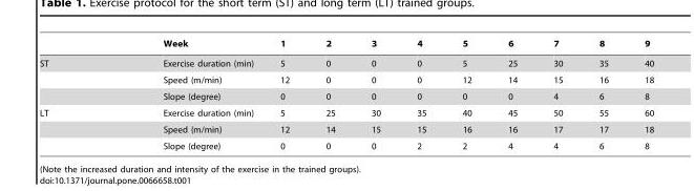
<table><thead><tr><td></td><td>Week</td><td>1</td><td>2</td><td>3</td><td>4</td><td>5</td><td>6</td><td>7</td><td>8</td><td>9</td></tr></thead><tbody><tr><td rowspan="3">ST</td><td>Exercise duration (min)</td><td>5</td><td>0</td><td>0</td><td>0</td><td>5</td><td>25</td><td>30</td><td>35</td><td>40</td></tr><tr><td>Speed (m/min)</td><td>12</td><td>0</td><td>0</td><td>0</td><td>12</td><td>14</td><td>15</td><td>16</td><td>18</td></tr><tr><td>Slope (degree)</td><td>0</td><td>0</td><td>0</td><td>0</td><td>0</td><td>0</td><td>4</td><td>6</td><td>8</td></tr><tr><td rowspan="3">LT</td><td>Exercise duration (min)</td><td>5</td><td>25</td><td>30</td><td>35</td><td>40</td><td>45</td><td>50</td><td>55</td><td>60</td></tr><tr><td>Speed (m/min)</td><td>12</td><td>14</td><td>15</td><td>15</td><td>16</td><td>16</td><td>17</td><td>17</td><td>18</td></tr><tr><td>Slope (degree)</td><td>0</td><td>0</td><td>0</td><td>2</td><td>2</td><td>4</td><td>4</td><td>6</td><td>8</td></tr></tbody></table>